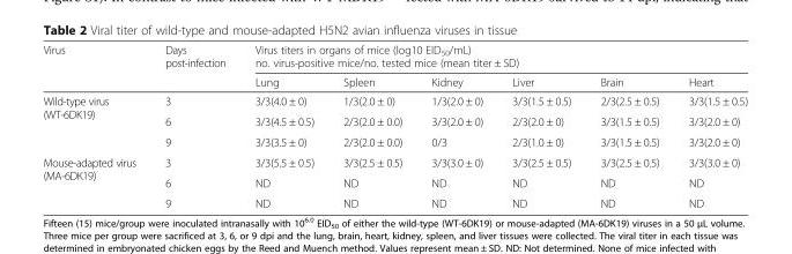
<table><thead><tr><td rowspan="2">Virus</td><td rowspan="2">Days post-infection</td><td colspan="6">Virus titers in organs of mice (log10 EID<sub>50</sub>/mL) no. virus-positive mice/no. tested mice (mean titer ± SD)</td></tr><tr><td>Lung</td><td>Spleen</td><td>Kidney</td><td>Liver</td><td>Brain</td><td>Heart</td></tr></thead><tbody><tr><td rowspan="3">Wild-type virus (WT-6DK19)</td><td>3</td><td>3/3(4.0 ± 0)</td><td>1/3(2.0 ± 0)</td><td>1/3(2.0 ± 0)</td><td>3/3(1.5 ± 0.5)</td><td>2/3(2.5 ± 0.5)</td><td>3/3(1.5 ± 0.5)</td></tr><tr><td>6</td><td>3/3(4.5 ± 0.5)</td><td>2/3(2.0 ± 0.0)</td><td>3/3(2.0 ± 0)</td><td>2/3(2.0 ± 0)</td><td>3/3(1.5 ± 0.5)</td><td>3/3(2.0 ± 0)</td></tr><tr><td>9</td><td>3/3(3.5 ± 0)</td><td>2/3(2.0 ± 0.0)</td><td>0/3</td><td>2/3(1.0 ± 0)</td><td>3/3(1.5 ± 0.5)</td><td>3/3(2.0 ± 0)</td></tr><tr><td rowspan="3">Mouse-adapted virus (MA-6DK19)</td><td>3</td><td>3/3(5.5 ± 0.5)</td><td>3/3(2.5 ± 0.5)</td><td>3/3(3.0 ± 0)</td><td>3/3(2.5 ± 0.5)</td><td>3/3(2.5 ± 0.5)</td><td>3/3(3.0 ± 0)</td></tr><tr><td>6</td><td>ND</td><td>ND</td><td>ND</td><td>ND</td><td>ND</td><td>ND</td></tr><tr><td>9</td><td>ND</td><td>ND</td><td>ND</td><td>ND</td><td>ND</td><td>ND</td></tr></tbody></table>